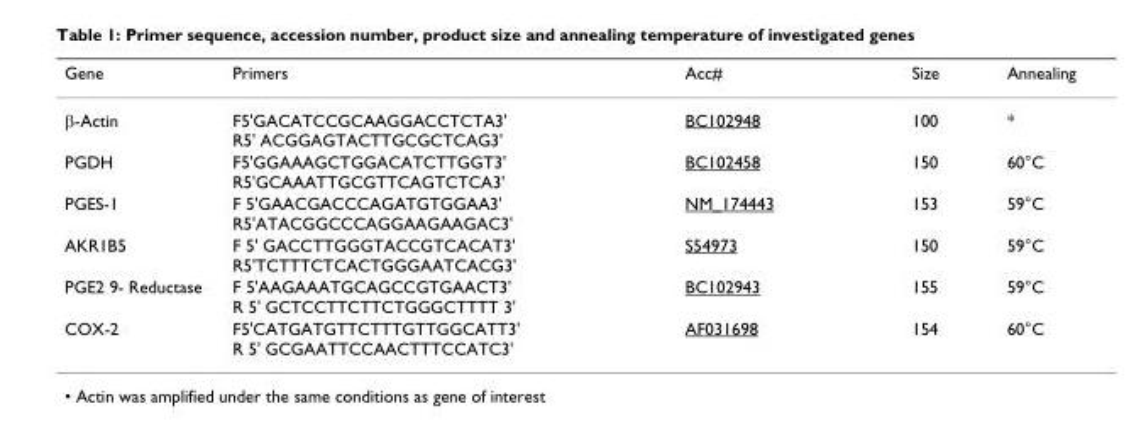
<table><thead><tr><td>Gene</td><td>Primers</td><td>Acc#</td><td>Size</td><td>Annealing</td></tr></thead><tbody><tr><td>β-Actin</td><td>F5&#x27;GACATCCGCAAGGACCTCTA3&#x27; R5&#x27; ACGGAGTACTTGCGCTCAG3&#x27;</td><td>BC102948</td><td>100</td><td>*</td></tr><tr><td>PGDH</td><td>F5&#x27;GGAAAGCTGGACATCTTGGT3&#x27; R5&#x27;GCAAATTGCGTTCAGTCTCA3&#x27;</td><td>BC102458</td><td>150</td><td>60°C</td></tr><tr><td>PGES-1</td><td>F 5&#x27;GAACGACCCAGATGTGGAA3&#x27; R5&#x27;ATACGGCCCAGGAAGAAGAC3&#x27;</td><td>NM_174443</td><td>153</td><td>59°C</td></tr><tr><td>AKR1B5</td><td>F 5&#x27; GACCTTGGGTACCGTCACAT3&#x27; R5&#x27;TCTTTCTCACTGGGAATCACG3&#x27;</td><td>S54973</td><td>150</td><td>59°C</td></tr><tr><td>PGE2 9- Reductase</td><td>F 5&#x27;AAGAAATGCAGCCGTGAACT3&#x27; R 5&#x27; GCTCCTTCTTCTGGGCTTTT 3&#x27;</td><td>BC102943</td><td>155</td><td>59°C</td></tr><tr><td>COX-2</td><td>F5&#x27;CATGATGTTCTTTGTTGGCATT3&#x27; R 5&#x27; GCGAATTCCAACTTTCCATC3&#x27;</td><td>AF031698</td><td>154</td><td>60°C</td></tr></tbody></table>